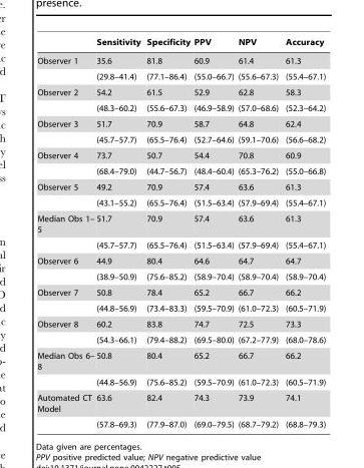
<table><thead><tr><td></td><td>Sensitivity</td><td>Specificity</td><td>PPV</td><td>NPV</td><td>Accuracy</td></tr></thead><tbody><tr><td rowspan="2">Observer 1</td><td>35.6</td><td>81.8</td><td>60.9</td><td>61.4</td><td>61.3</td></tr><tr><td>(29.8–41.4)</td><td>(77.1–86.4)</td><td>(55.0–66.7)</td><td>(55.6–67.3)</td><td>(55.4–67.1)</td></tr><tr><td rowspan="2">Observer 2</td><td>54.2</td><td>61.5</td><td>52.9</td><td>62.8</td><td>58.3</td></tr><tr><td>(48.3–60.2)</td><td>(55.6–67.3)</td><td>(46.9–58.9)</td><td>(57.0–68.6)</td><td>(52.3–64.2)</td></tr><tr><td rowspan="2">Observer 3</td><td>51.7</td><td>70.9</td><td>58.7</td><td>64.8</td><td>62.4</td></tr><tr><td>(45.7–57.7)</td><td>(65.5–76.4)</td><td>(52.7–64.6)</td><td>(59.1–70.6)</td><td>(56.6–68.2)</td></tr><tr><td rowspan="2">Observer 4</td><td>73.7</td><td>50.7</td><td>54.4</td><td>70.8</td><td>60.9</td></tr><tr><td>(68.4–79.0)</td><td>(44.7–56.7)</td><td>(48.4–60.4)</td><td>(65.3–76.2)</td><td>(55.0–66.8)</td></tr><tr><td rowspan="2">Observer 5</td><td>49.2</td><td>70.9</td><td>57.4</td><td>63.6</td><td>61.3</td></tr><tr><td>(43.1–55.2)</td><td>(65.5–76.4)</td><td>(51.5–63.4)</td><td>(57.9–69.4)</td><td>(55.4–67.1)</td></tr><tr><td rowspan="2">Median Obs 1– 5</td><td>51.7</td><td>70.9</td><td>57.4</td><td>63.6</td><td>61.3</td></tr><tr><td>(45.7–57.7)</td><td>(65.5–76.4)</td><td>(51.5–63.4)</td><td>(57.9–69.4)</td><td>(55.4–67.1)</td></tr><tr><td rowspan="2">Observer 6</td><td>44.9</td><td>80.4</td><td>64.6</td><td>64.7</td><td>64.7</td></tr><tr><td>(38.9–50.9)</td><td>(75.6–85.2)</td><td>(58.9–70.4)</td><td>(58.9–70.4)</td><td>(58.9–70.4)</td></tr><tr><td rowspan="2">Observer 7</td><td>50.8</td><td>78.4</td><td>65.2</td><td>66.7</td><td>66.2</td></tr><tr><td>(44.8–56.9)</td><td>(73.4–83.3)</td><td>(59.5–70.9)</td><td>(61.0–72.3)</td><td>(60.5–71.9)</td></tr><tr><td rowspan="2">Observer 8</td><td>60.2</td><td>83.8</td><td>74.7</td><td>72.5</td><td>73.3</td></tr><tr><td>(54.3–66.1)</td><td>(79.4–88.2)</td><td>(69.5–80.0)</td><td>(67.2–77.9)</td><td>(68.0–78.6)</td></tr><tr><td rowspan="2">Median Obs 6– 8</td><td>50.8</td><td>80.4</td><td>65.2</td><td>66.7</td><td>66.2</td></tr><tr><td>(44.8–56.9)</td><td>(75.6–85.2)</td><td>(59.5–70.9)</td><td>(61.0–72.3)</td><td>(60.5–71.9)</td></tr><tr><td rowspan="2">Automated CT Model</td><td>63.6</td><td>82.4</td><td>74.3</td><td>73.9</td><td>74.1</td></tr><tr><td>(57.8–69.3)</td><td>(77.9–87.0)</td><td>(69.0–79.5)</td><td>(68.7–79.2)</td><td>(68.8–79.3)</td></tr></tbody></table>